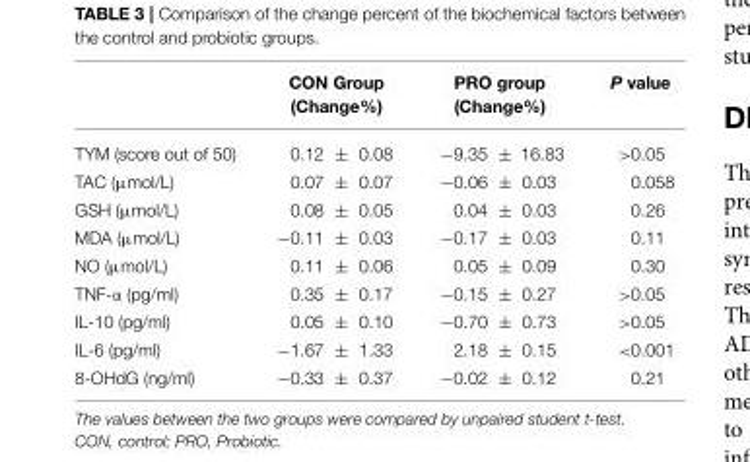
<table><thead><tr><td></td><td>CON Group (Change%)</td><td>PRO group (Change%)</td><td>P value</td></tr></thead><tbody><tr><td>TYM (score out of 50)</td><td>0.12 ± 0.08</td><td>−9.35 ± 16.83</td><td>&gt;0.05</td></tr><tr><td>TAC (µmol/L)</td><td>0.07 ± 0.07</td><td>−0.06 ± 0.03</td><td>0.058</td></tr><tr><td>GSH (µmol/L)</td><td>0.08 ± 0.05</td><td>0.04 ± 0.03</td><td>0.26</td></tr><tr><td>MDA (µmol/L)</td><td>−0.11 ± 0.03</td><td>−0.17 ± 0.03</td><td>0.11</td></tr><tr><td>NO (µmol/L)</td><td>0.11 ± 0.06</td><td>0.05 ± 0.09</td><td>0.30</td></tr><tr><td>TNF-α (pg/ml)</td><td>0.35 ± 0.17</td><td>−0.15 ± 0.27</td><td>&gt;0.05</td></tr><tr><td>IL-10 (pg/ml)</td><td>0.05 ± 0.10</td><td>−0.70 ± 0.73</td><td>&gt;0.05</td></tr><tr><td>IL-6 (pg/ml)</td><td>−1.67 ± 1.33</td><td>2.18 ± 0.15</td><td>&lt;0.001</td></tr><tr><td>8-OHdG (ng/ml)</td><td>−0.33 ± 0.37</td><td>−0.02 ± 0.12</td><td>0.21</td></tr></tbody></table>